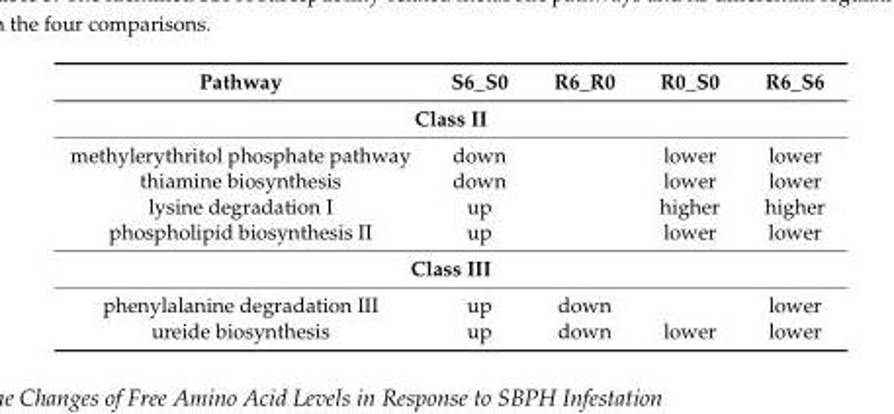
<table><thead><tr><td>Pathway</td><td>S6_S0</td><td>R6_R0</td><td>R0_S0</td><td>R6_S6</td></tr></thead><tbody><tr><td colspan="5">Class II</td></tr><tr><td>methylerythritol phosphate pathway</td><td>down</td><td></td><td>lower</td><td>lower</td></tr><tr><td>thiamine biosynthesis</td><td>down</td><td></td><td>lower</td><td>lower</td></tr><tr><td>lysine degradation I</td><td>up</td><td></td><td>higher</td><td>higher</td></tr><tr><td>phospholipid biosynthesis II</td><td>up</td><td></td><td>lower</td><td>lower</td></tr><tr><td colspan="5">Class III</td></tr><tr><td>phenylalanine degradation III</td><td>up</td><td>down</td><td></td><td>lower</td></tr><tr><td>ureide biosynthesis</td><td>up</td><td>down</td><td>lower</td><td>lower</td></tr></tbody></table>